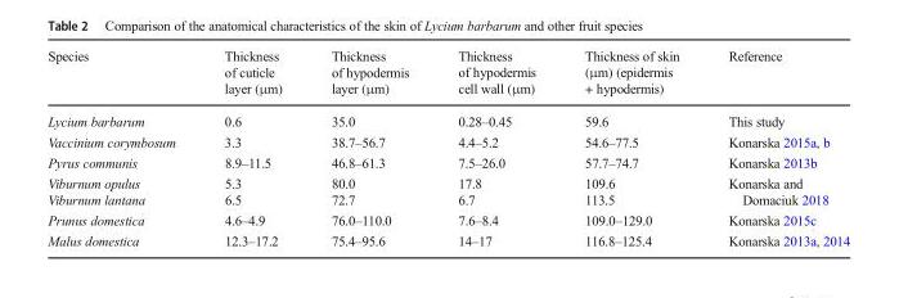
<table><thead><tr><td>Species</td><td>Thickness of cuticle layer (μm)</td><td>Thickness of hypodermis layer (μm)</td><td>Thickness of hypodermis cell wall (μm)</td><td>Thickness of skin (μm) (epidermis + hypodermis)</td><td>Reference</td></tr></thead><tbody><tr><td>Lycium barbarum</td><td>0.6</td><td>35.0</td><td>0.28–0.45</td><td>59.6</td><td>This study</td></tr><tr><td>Vaccinium corymbosum</td><td>3.3</td><td>38.7–56.7</td><td>4.4–5.2</td><td>54.6–77.5</td><td>Konarska 2015a, b</td></tr><tr><td>Pyrus communis</td><td>8.9–11.5</td><td>46.8–61.3</td><td>7.5–26.0</td><td>57.7–74.7</td><td>Konarska 2013b</td></tr><tr><td>Viburnum opulus</td><td>5.3</td><td>80.0</td><td>17.8</td><td>109.6</td><td rowspan="2">Konarska and Domaciuk 2018</td></tr><tr><td>Viburnum lantana</td><td>6.5</td><td>72.7</td><td>6.7</td><td>113.5</td></tr><tr><td>Prunus domestica</td><td>4.6–4.9</td><td>76.0–110.0</td><td>7.6–8.4</td><td>109.0–129.0</td><td>Konarska 2015c</td></tr><tr><td>Malus domestica</td><td>12.3–17.2</td><td>75.4–95.6</td><td>14–17</td><td>116.8–125.4</td><td>Konarska 2013a, 2014</td></tr></tbody></table>